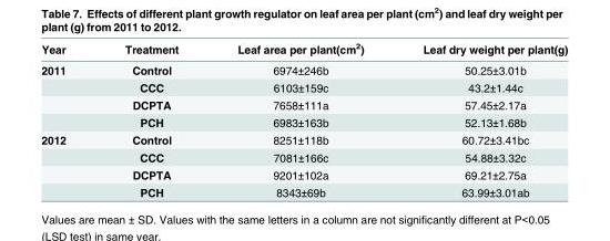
<table><thead><tr><td>Year</td><td>Treatment</td><td>Leaf area per plant(cm<sup>2</sup>)</td><td>Leaf dry weight per plant(g)</td></tr></thead><tbody><tr><td rowspan="4">2011</td><td>Control</td><td>6974±246b</td><td>50.25±3.01b</td></tr><tr><td>CCC</td><td>6103±159c</td><td>43.2±1.44c</td></tr><tr><td>DCPTA</td><td>7658±111a</td><td>57.45±2.17a</td></tr><tr><td>PCH</td><td>6983±163b</td><td>52.13±1.68b</td></tr><tr><td rowspan="4">2012</td><td>Control</td><td>8251±118b</td><td>60.72±3.41bc</td></tr><tr><td>CCC</td><td>7081±166c</td><td>54.88±3.32c</td></tr><tr><td>DCPTA</td><td>9201±102a</td><td>69.21±2.75a</td></tr><tr><td>PCH</td><td>8343±69b</td><td>63.99±3.01ab</td></tr></tbody></table>